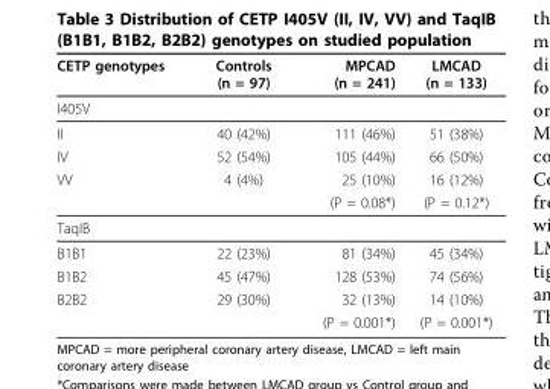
<table><thead><tr><td>CETP genotypes</td><td>Controls (n = 97)</td><td>MPCAD (n = 241)</td><td>LMCAD (n = 133)</td></tr></thead><tbody><tr><td colspan="4">I405V</td></tr><tr><td>II</td><td>40 (42%)</td><td>111 (46%)</td><td>51 (38%)</td></tr><tr><td>IV</td><td>52 (54%)</td><td>105 (44%)</td><td>66 (50%)</td></tr><tr><td rowspan="2">VV</td><td>4 (4%)</td><td>25 (10%)</td><td>16 (12%)</td></tr><tr><td></td><td>(P = 0.08*)</td><td>(P = 0.12*)</td></tr><tr><td colspan="4">TaqIB</td></tr><tr><td>B1B1</td><td>22 (23%)</td><td>81 (34%)</td><td>45 (34%)</td></tr><tr><td>B1B2</td><td>45 (47%)</td><td>128 (53%)</td><td>74 (56%)</td></tr><tr><td rowspan="2">B2B2</td><td>29 (30%)</td><td>32 (13%)</td><td>14 (10%)</td></tr><tr><td></td><td>(P = 0.001*)</td><td>(P = 0.001*)</td></tr></tbody></table>